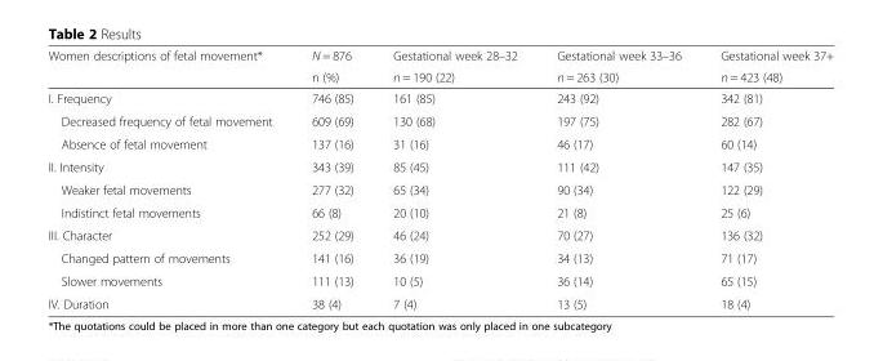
<table><thead><tr><td rowspan="2">Women descriptions of fetal movement*</td><td rowspan="2">N = 876 n (%)</td><td rowspan="2">Gestational week 28–32 n = 190 (22)</td><td rowspan="2">Gestational week 33–36 n = 263 (30)</td><td rowspan="2">Gestational week 37+ n = 423 (48)</td></tr><tr></tr></thead><tbody><tr><td>I. Frequency</td><td>746 (85)</td><td>161 (85)</td><td>243 (92)</td><td>342 (81)</td></tr><tr><td>Decreased frequency of fetal movement</td><td>609 (69)</td><td>130 (68)</td><td>197 (75)</td><td>282 (67)</td></tr><tr><td>Absence of fetal movement</td><td>137 (16)</td><td>31 (16)</td><td>46 (17)</td><td>60 (14)</td></tr><tr><td>II. Intensity</td><td>343 (39)</td><td>85 (45)</td><td>111 (42)</td><td>147 (35)</td></tr><tr><td>Weaker fetal movements</td><td>277 (32)</td><td>65 (34)</td><td>90 (34)</td><td>122 (29)</td></tr><tr><td>Indistinct fetal movements</td><td>66 (8)</td><td>20 (10)</td><td>21 (8)</td><td>25 (6)</td></tr><tr><td>III. Character</td><td>252 (29)</td><td>46 (24)</td><td>70 (27)</td><td>136 (32)</td></tr><tr><td>Changed pattern of movements</td><td>141 (16)</td><td>36 (19)</td><td>34 (13)</td><td>71 (17)</td></tr><tr><td>Slower movements</td><td>111 (13)</td><td>10 (5)</td><td>36 (14)</td><td>65 (15)</td></tr><tr><td>IV. Duration</td><td>38 (4)</td><td>7 (4)</td><td>13 (5)</td><td>18 (4)</td></tr></tbody></table>